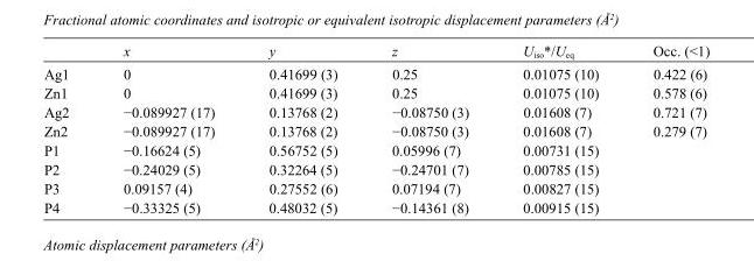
<table><thead><tr><td></td><td>x</td><td>y</td><td>z</td><td>U<sub>iso</sub>*/U<sub>eq</sub></td><td>Occ. (&lt;1)</td></tr></thead><tbody><tr><td>Ag1</td><td>0</td><td>0.41699 (3)</td><td>0.25</td><td>0.01075 (10)</td><td>0.422 (6)</td></tr><tr><td>Zn1</td><td>0</td><td>0.41699 (3)</td><td>0.25</td><td>0.01075 (10)</td><td>0.578 (6)</td></tr><tr><td>Ag2</td><td>−0.089927 (17)</td><td>0.13768 (2)</td><td>−0.08750 (3)</td><td>0.01608 (7)</td><td>0.721 (7)</td></tr><tr><td>Zn2</td><td>−0.089927 (17)</td><td>0.13768 (2)</td><td>−0.08750 (3)</td><td>0.01608 (7)</td><td>0.279 (7)</td></tr><tr><td>P1</td><td>−0.16624 (5)</td><td>0.56752 (5)</td><td>0.05996 (7)</td><td>0.00731 (15)</td><td></td></tr><tr><td>P2</td><td>−0.24029 (5)</td><td>0.32264 (5)</td><td>−0.24701 (7)</td><td>0.00785 (15)</td><td></td></tr><tr><td>P3</td><td>0.09157 (4)</td><td>0.27552 (6)</td><td>0.07194 (7)</td><td>0.00827 (15)</td><td></td></tr><tr><td>P4</td><td>−0.33325 (5)</td><td>0.48032 (5)</td><td>−0.14361 (8)</td><td>0.00915 (15)</td><td></td></tr></tbody></table>